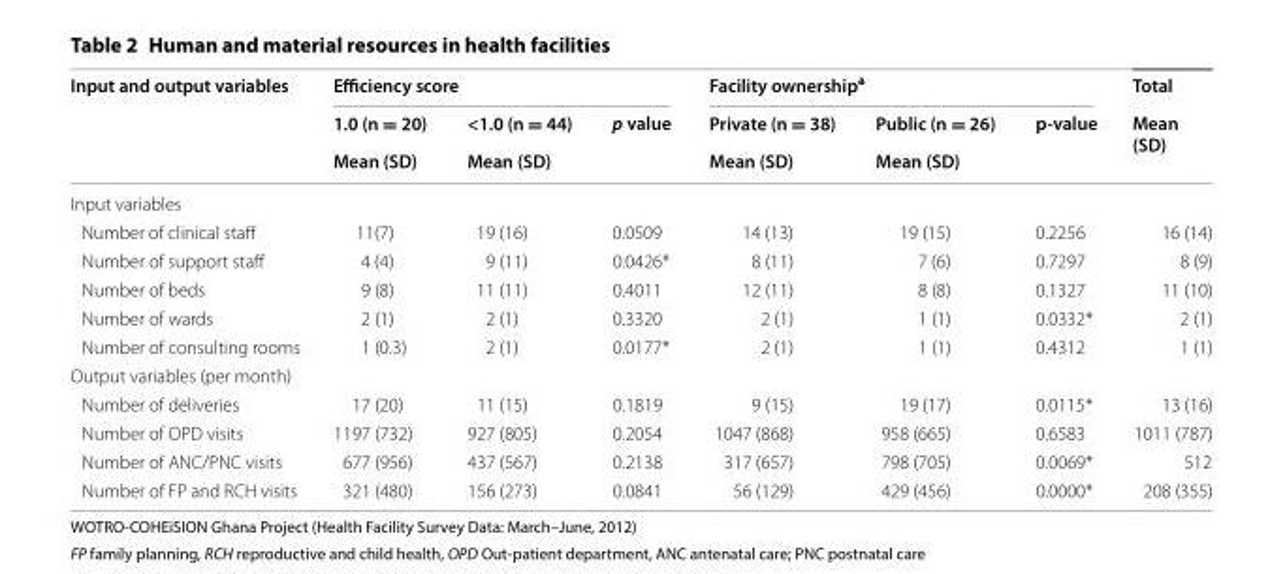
<table><thead><tr><td rowspan="3">Input and output variables</td><td colspan="3">Efficiency score</td><td colspan="3">Facility ownership<sup>a</sup></td><td rowspan="3">Total Mean (SD)</td></tr><tr><td rowspan="2">1.0 (n = 20) Mean (SD)</td><td rowspan="2">&lt;1.0 (n = 44) Mean (SD)</td><td rowspan="2">p value</td><td rowspan="2">Private (n = 38) Mean (SD)</td><td rowspan="2">Public (n = 26) Mean (SD)</td><td rowspan="2">p-value</td></tr><tr></tr></thead><tbody><tr><td colspan="8">Input variables</td></tr><tr><td>Number of clinical staff</td><td>11(7)</td><td>19 (16)</td><td>0.0509</td><td>14 (13)</td><td>19 (15)</td><td>0.2256</td><td>16 (14)</td></tr><tr><td>Number of support staff</td><td>4 (4)</td><td>9 (11)</td><td>0.0426*</td><td>8 (11)</td><td>7 (6)</td><td>0.7297</td><td>8 (9)</td></tr><tr><td>Number of beds</td><td>9 (8)</td><td>11 (11)</td><td>0.4011</td><td>12 (11)</td><td>8 (8)</td><td>0.1327</td><td>11 (10)</td></tr><tr><td>Number of wards</td><td>2 (1)</td><td>2 (1)</td><td>0.3320</td><td>2 (1)</td><td>1 (1)</td><td>0.0332*</td><td>2 (1)</td></tr><tr><td>Number of consulting rooms</td><td>1 (0.3)</td><td>2 (1)</td><td>0.0177*</td><td>2 (1)</td><td>1 (1)</td><td>0.4312</td><td>1 (1)</td></tr><tr><td colspan="8">Output variables (per month)</td></tr><tr><td>Number of deliveries</td><td>17 (20)</td><td>11 (15)</td><td>0.1819</td><td>9 (15)</td><td>19 (17)</td><td>0.0115*</td><td>13 (16)</td></tr><tr><td>Number of OPD visits</td><td>1197 (732)</td><td>927 (805)</td><td>0.2054</td><td>1047 (868)</td><td>958 (665)</td><td>0.6583</td><td>1011 (787)</td></tr><tr><td>Number of ANC/PNC visits</td><td>677 (956)</td><td>437 (567)</td><td>0.2138</td><td>317 (657)</td><td>798 (705)</td><td>0.0069*</td><td>512</td></tr><tr><td>Number of FP and RCH visits</td><td>321 (480)</td><td>156 (273)</td><td>0.0841</td><td>56 (129)</td><td>429 (456)</td><td>0.0000*</td><td>208 (355)</td></tr></tbody></table>